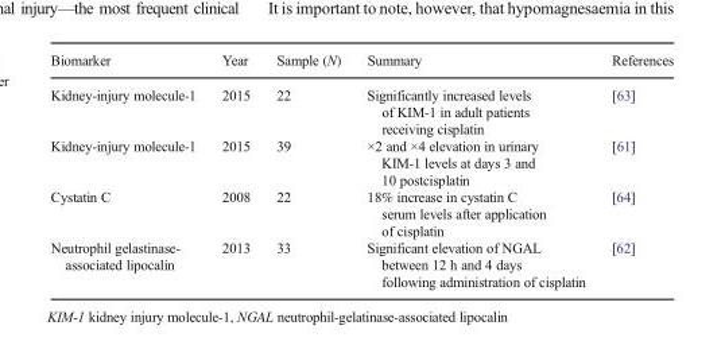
<table><thead><tr><td>Biomarker</td><td>Year</td><td>Sample (N)</td><td>Summary</td><td>References</td></tr></thead><tbody><tr><td>Kidney-injury molecule-1</td><td>2015</td><td>22</td><td>Significantly increased levels of KIM-1 in adult patients receiving cisplatin</td><td>[63]</td></tr><tr><td>Kidney-injury molecule-1</td><td>2015</td><td>39</td><td>×2 and ×4 elevation in urinary KIM-1 levels at days 3 and 10 postcisplatin</td><td>[61]</td></tr><tr><td>Cystatin C</td><td>2008</td><td>22</td><td>18% increase in cystatin C serum levels after application of cisplatin</td><td>[64]</td></tr><tr><td>Neutrophil gelastinase- associated lipocalin</td><td>2013</td><td>33</td><td>Significant elevation of NGAL between 12 h and 4 days following administration of cisplatin</td><td>[62]</td></tr></tbody></table>